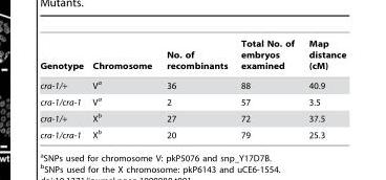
<table><thead><tr><td>Genotype</td><td>Chromosome</td><td>No. of recombinants</td><td>Total No. of embryos examined</td><td>Map distance (cM)</td></tr></thead><tbody><tr><td>cra-1/+</td><td>V<sup>a</sup></td><td>36</td><td>88</td><td>40.9</td></tr><tr><td>cra-1/cra-1</td><td>V<sup>a</sup></td><td>2</td><td>57</td><td>3.5</td></tr><tr><td>cra-1/+</td><td>X<sup>b</sup></td><td>27</td><td>72</td><td>37.5</td></tr><tr><td>cra-1/cra-1</td><td>X<sup>b</sup></td><td>20</td><td>79</td><td>25.3</td></tr></tbody></table>